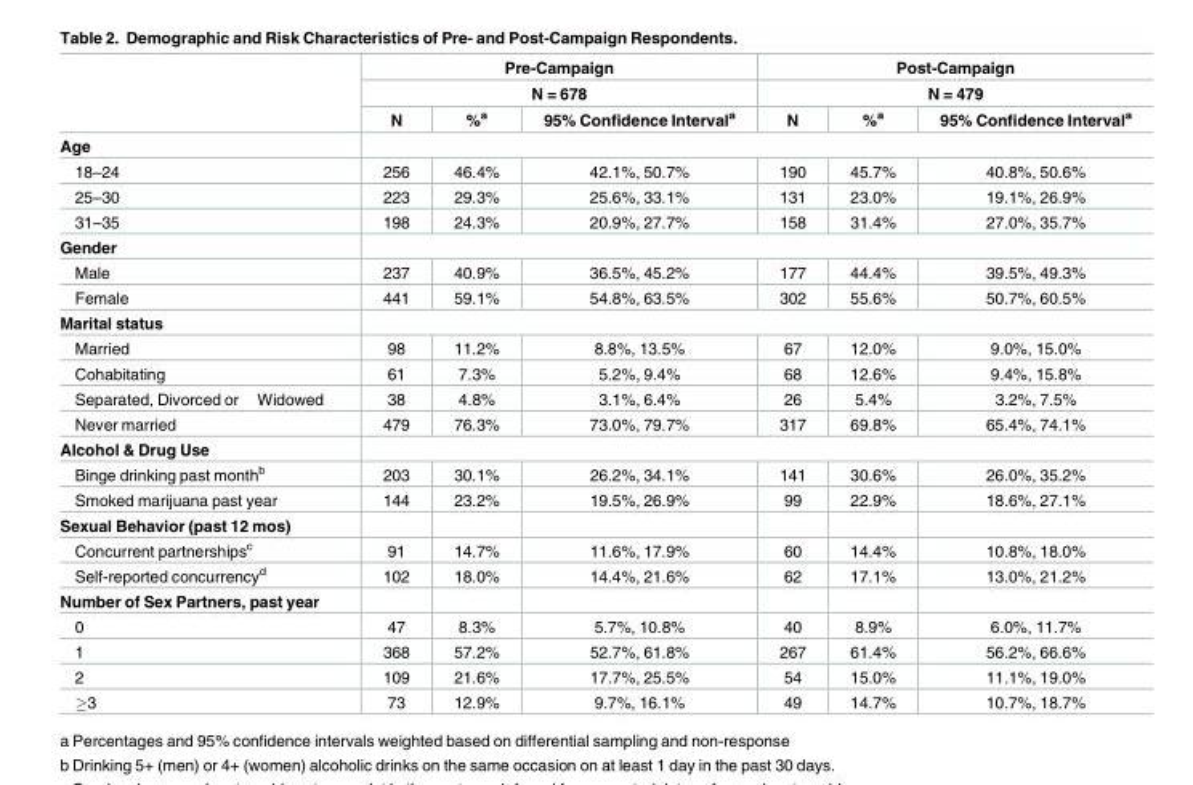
<table><thead><tr><td rowspan="3"></td><td rowspan="2" colspan="3">Pre-Campaign N = 678</td><td rowspan="2" colspan="3">Post-Campaign N = 479</td></tr><tr></tr><tr><td>N</td><td>%<sup>a</sup></td><td>95% Confidence Interval<sup>a</sup></td><td>N</td><td>%<sup>a</sup></td><td>95% Confidence Interval<sup>a</sup></td></tr></thead><tbody><tr><td colspan="7">Age</td></tr><tr><td>18–24</td><td>256</td><td>46.4%</td><td>42.1%, 50.7%</td><td>190</td><td>45.7%</td><td>40.8%, 50.6%</td></tr><tr><td>25–30</td><td>223</td><td>29.3%</td><td>25.6%, 33.1%</td><td>131</td><td>23.0%</td><td>19.1%, 26.9%</td></tr><tr><td>31–35</td><td>198</td><td>24.3%</td><td>20.9%, 27.7%</td><td>158</td><td>31.4%</td><td>27.0%, 35.7%</td></tr><tr><td colspan="7">Gender</td></tr><tr><td>Male</td><td>237</td><td>40.9%</td><td>36.5%, 45.2%</td><td>177</td><td>44.4%</td><td>39.5%, 49.3%</td></tr><tr><td>Female</td><td>441</td><td>59.1%</td><td>54.8%, 63.5%</td><td>302</td><td>55.6%</td><td>50.7%, 60.5%</td></tr><tr><td colspan="7">Marital status</td></tr><tr><td>Married</td><td>98</td><td>11.2%</td><td>8.8%, 13.5%</td><td>67</td><td>12.0%</td><td>9.0%, 15.0%</td></tr><tr><td>Cohabitating</td><td>61</td><td>7.3%</td><td>5.2%, 9.4%</td><td>68</td><td>12.6%</td><td>9.4%, 15.8%</td></tr><tr><td>Separated, Divorced or Widowed</td><td>38</td><td>4.8%</td><td>3.1%, 6.4%</td><td>26</td><td>5.4%</td><td>3.2%, 7.5%</td></tr><tr><td>Never married</td><td>479</td><td>76.3%</td><td>73.0%, 79.7%</td><td>317</td><td>69.8%</td><td>65.4%, 74.1%</td></tr><tr><td colspan="7">Alcohol &amp; Drug Use</td></tr><tr><td>Binge drinking past month<sup>b</sup></td><td>203</td><td>30.1%</td><td>26.2%, 34.1%</td><td>141</td><td>30.6%</td><td>26.0%, 35.2%</td></tr><tr><td>Smoked marijuana past year</td><td>144</td><td>23.2%</td><td>19.5%, 26.9%</td><td>99</td><td>22.9%</td><td>18.6%, 27.1%</td></tr><tr><td colspan="7">Sexual Behavior (past 12 mos)</td></tr><tr><td>Concurrent partnerships<sup>c</sup></td><td>91</td><td>14.7%</td><td>11.6%, 17.9%</td><td>60</td><td>14.4%</td><td>10.8%, 18.0%</td></tr><tr><td>Self-reported concurrency<sup>d</sup></td><td>102</td><td>18.0%</td><td>14.4%, 21.6%</td><td>62</td><td>17.1%</td><td>13.0%, 21.2%</td></tr><tr><td colspan="7">Number of Sex Partners, past year</td></tr><tr><td>0</td><td>47</td><td>8.3%</td><td>5.7%, 10.8%</td><td>40</td><td>8.9%</td><td>6.0%, 11.7%</td></tr><tr><td>1</td><td>368</td><td>57.2%</td><td>52.7%, 61.8%</td><td>267</td><td>61.4%</td><td>56.2%, 66.6%</td></tr><tr><td>2</td><td>109</td><td>21.6%</td><td>17.7%, 25.5%</td><td>54</td><td>15.0%</td><td>11.1%, 19.0%</td></tr><tr><td>≥3</td><td>73</td><td>12.9%</td><td>9.7%, 16.1%</td><td>49</td><td>14.7%</td><td>10.7%, 18.7%</td></tr></tbody></table>